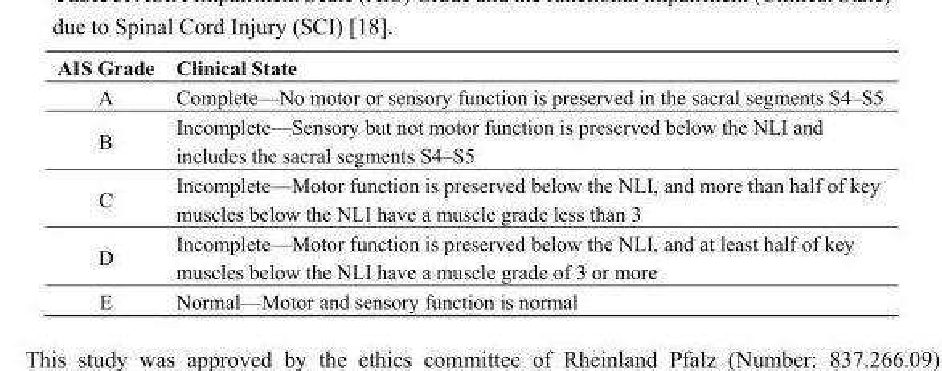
<table><thead><tr><td>AIS Grade</td><td>Clinical State</td></tr></thead><tbody><tr><td>A</td><td>Complete—No motor or sensory function is preserved in the sacral segments S4–S5</td></tr><tr><td>B</td><td>Incomplete—Sensory but not motor function is preserved below the NLI and includes the sacral segments S4–S5</td></tr><tr><td>C</td><td>Incomplete—Motor function is preserved below the NLI, and more than half of key muscles below the NLI have a muscle grade less than 3</td></tr><tr><td>D</td><td>Incomplete—Motor function is preserved below the NLI, and at least half of key muscles below the NLI have a muscle grade of 3 or more</td></tr><tr><td>E</td><td>Normal—Motor and sensory function is normal</td></tr></tbody></table>